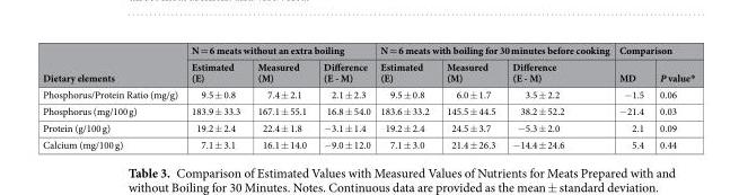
<table><thead><tr><td rowspan="2">Dietary elements</td><td colspan="3">N = 6 meats without an extra boiling</td><td colspan="3">N = 6 meats with boiling for 30 minutes before cooking</td><td colspan="2">Comparison</td></tr><tr><td>Estimated (E)</td><td>Measured (M)</td><td>Difference (E - M)</td><td>Estimated (E)</td><td>Measured (M)</td><td>Difference (E - M)</td><td>MD</td><td>P value*</td></tr></thead><tbody><tr><td>Phosphorus/Protein Ratio (mg/g)</td><td>9.5 ± 0.8</td><td>7.4 ± 2.1</td><td>2.1 ± 2.3</td><td>9.5 ± 0.8</td><td>6.0 ± 1.7</td><td>3.5 ± 2.2</td><td>−1.5</td><td>0.06</td></tr><tr><td>Phosphorus (mg/100 g)</td><td>183.9 ± 33.3</td><td>167.1 ± 55.1</td><td>16.8 ± 54.0</td><td>183.6 ± 33.2</td><td>145.5 ± 44.5</td><td>38.2 ± 52.2</td><td>−21.4</td><td>0.03</td></tr><tr><td>Protein (g/100 g)</td><td>19.2 ± 2.4</td><td>22.4 ± 1.8</td><td>−3.1 ± 1.4</td><td>19.2 ± 2.4</td><td>24.5 ± 3.7</td><td>−5.3 ± 2.0</td><td>2.1</td><td>0.09</td></tr><tr><td>Calcium (mg/100 g)</td><td>7.1 ± 3.1</td><td>16.1 ± 14.0</td><td>−9.0 ± 12.0</td><td>7.1 ± 3.0</td><td>21.4 ± 26.3</td><td>−14.4 ± 24.6</td><td>5.4</td><td>0.44</td></tr></tbody></table>